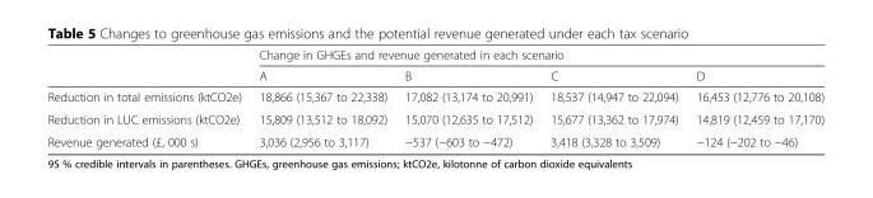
<table><thead><tr><td rowspan="2"></td><td colspan="4">Change in GHGEs and revenue generated in each scenario</td></tr><tr><td>A</td><td>B</td><td>C</td><td>D</td></tr></thead><tbody><tr><td>Reduction in total emissions (ktCO2e)</td><td>18,866 (15,367 to 22,338)</td><td>17,082 (13,174 to 20,991)</td><td>18,537 (14,947 to 22,094)</td><td>16,453 (12,776 to 20,108)</td></tr><tr><td>Reduction in LUC emissions (ktCO2e)</td><td>15,809 (13,512 to 18,092)</td><td>15,070 (12,635 to 17,512)</td><td>15,677 (13,362 to 17,974)</td><td>14,819 (12,459 to 17,170)</td></tr><tr><td>Revenue generated (£, 000 s)</td><td>3,036 (2,956 to 3,117)</td><td>−537 (−603 to −472)</td><td>3,418 (3,328 to 3,509)</td><td>−124 (−202 to −46)</td></tr></tbody></table>